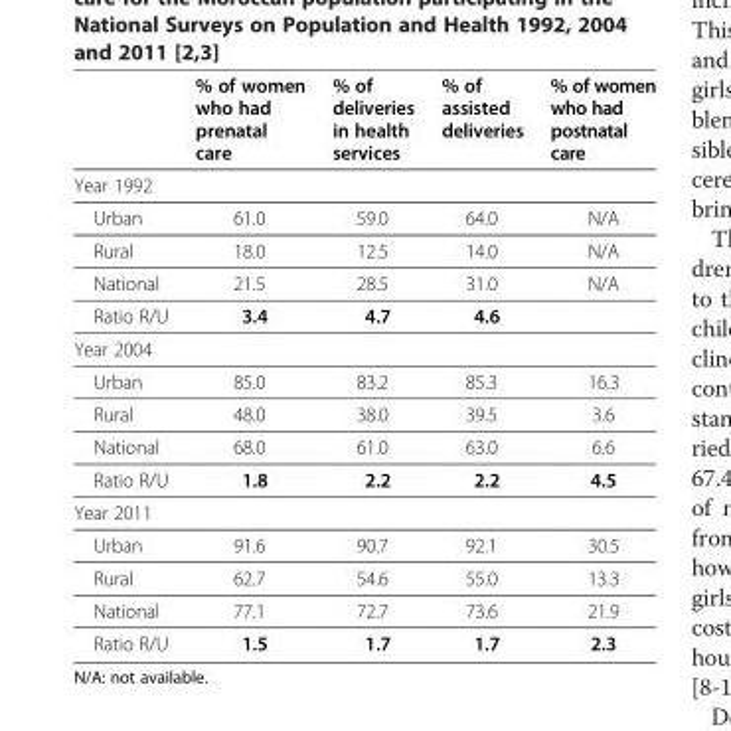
<table><thead><tr><td></td><td>% of women who had prenatal care</td><td>% of deliveries in health services</td><td>% of assisted deliveries</td><td>% of women who had postnatal care</td></tr></thead><tbody><tr><td colspan="5">Year 1992</td></tr><tr><td>Urban</td><td>61.0</td><td>59.0</td><td>64.0</td><td>N/A</td></tr><tr><td>Rural</td><td>18.0</td><td>12.5</td><td>14.0</td><td>N/A</td></tr><tr><td>National</td><td>21.5</td><td>28.5</td><td>31.0</td><td>N/A</td></tr><tr><td>Ratio R/U</td><td>3.4</td><td>4.7</td><td>4.6</td><td></td></tr><tr><td colspan="5">Year 2004</td></tr><tr><td>Urban</td><td>85.0</td><td>83.2</td><td>85.3</td><td>16.3</td></tr><tr><td>Rural</td><td>48.0</td><td>38.0</td><td>39.5</td><td>3.6</td></tr><tr><td>National</td><td>68.0</td><td>61.0</td><td>63.0</td><td>6.6</td></tr><tr><td>Ratio R/U</td><td>1.8</td><td>2.2</td><td>2.2</td><td>4.5</td></tr><tr><td colspan="5">Year 2011</td></tr><tr><td>Urban</td><td>91.6</td><td>90.7</td><td>92.1</td><td>30.5</td></tr><tr><td>Rural</td><td>62.7</td><td>54.6</td><td>55.0</td><td>13.3</td></tr><tr><td>National</td><td>77.1</td><td>72.7</td><td>73.6</td><td>21.9</td></tr><tr><td>Ratio R/U</td><td>1.5</td><td>1.7</td><td>1.7</td><td>2.3</td></tr></tbody></table>